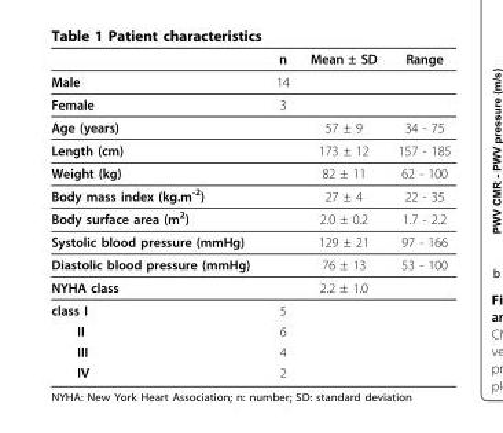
<table><thead><tr><td></td><td>n</td><td>Mean ± SD</td><td>Range</td></tr></thead><tbody><tr><td>Male</td><td>14</td><td></td><td></td></tr><tr><td>Female</td><td>3</td><td></td><td></td></tr><tr><td>Age (years)</td><td></td><td>57 ± 9</td><td>34 - 75</td></tr><tr><td>Length (cm)</td><td></td><td>173 ± 12</td><td>157 - 185</td></tr><tr><td>Weight (kg)</td><td></td><td>82 ± 11</td><td>62 - 100</td></tr><tr><td>Body mass index (kg.m<sup>-2</sup>)</td><td></td><td>27 ± 4</td><td>22 - 35</td></tr><tr><td>Body surface area (m<sup>2</sup>)</td><td></td><td>2.0 ± 0.2</td><td>1.7 - 2.2</td></tr><tr><td>Systolic blood pressure (mmHg)</td><td></td><td>129 ± 21</td><td>97 - 166</td></tr><tr><td>Diastolic blood pressure (mmHg)</td><td></td><td>76 ± 13</td><td>53 - 100</td></tr><tr><td>NYHA class</td><td></td><td>2.2 ± 1.0</td><td></td></tr><tr><td>class I</td><td>5</td><td></td><td></td></tr><tr><td>II</td><td>6</td><td></td><td></td></tr><tr><td>III</td><td>4</td><td></td><td></td></tr><tr><td>IV</td><td>2</td><td></td><td></td></tr></tbody></table>